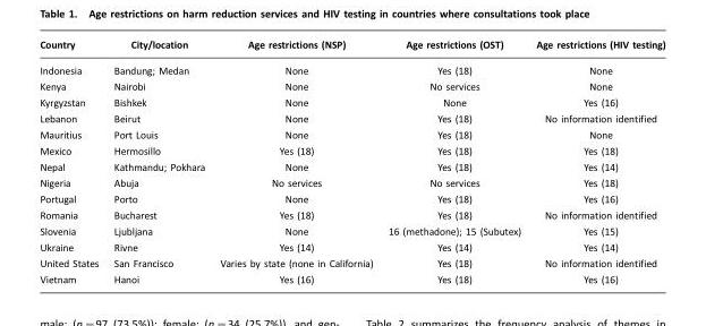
<table><thead><tr><td>Country</td><td>City/location</td><td>Age restrictions (NSP)</td><td>Age restrictions (OST)</td><td>Age restrictions (HIV testing)</td></tr></thead><tbody><tr><td>Indonesia</td><td>Bandung; Medan</td><td>None</td><td>Yes (18)</td><td>None</td></tr><tr><td>Kenya</td><td>Nairobi</td><td>None</td><td>No services</td><td>None</td></tr><tr><td>Kyrgyzstan</td><td>Bishkek</td><td>None</td><td>None</td><td>Yes (16)</td></tr><tr><td>Lebanon</td><td>Beirut</td><td>None</td><td>Yes (18)</td><td>No information identified</td></tr><tr><td>Mauritius</td><td>Port Louis</td><td>None</td><td>Yes (18)</td><td>None</td></tr><tr><td>Mexico</td><td>Hermosillo</td><td>Yes (18)</td><td>Yes (18)</td><td>Yes (18)</td></tr><tr><td>Nepal</td><td>Kathmandu; Pokhara</td><td>None</td><td>Yes (18)</td><td>Yes (14)</td></tr><tr><td>Nigeria</td><td>Abuja</td><td>No services</td><td>No services</td><td>Yes (18)</td></tr><tr><td>Portugal</td><td>Porto</td><td>None</td><td>Yes (18)</td><td>Yes (16)</td></tr><tr><td>Romania</td><td>Bucharest</td><td>Yes (18)</td><td>Yes (18)</td><td>No information identified</td></tr><tr><td>Slovenia</td><td>Ljubljana</td><td>None</td><td>16 (methadone); 15 (Subutex)</td><td>Yes (15)</td></tr><tr><td>Ukraine</td><td>Rivne</td><td>Yes (14)</td><td>Yes (14)</td><td>Yes (14)</td></tr><tr><td>United States</td><td>San Francisco</td><td>Varies by state (none in California)</td><td>Yes (18)</td><td>No information identified</td></tr><tr><td>Vietnam</td><td>Hanoi</td><td>Yes (16)</td><td>Yes (18)</td><td>Yes (16)</td></tr></tbody></table>